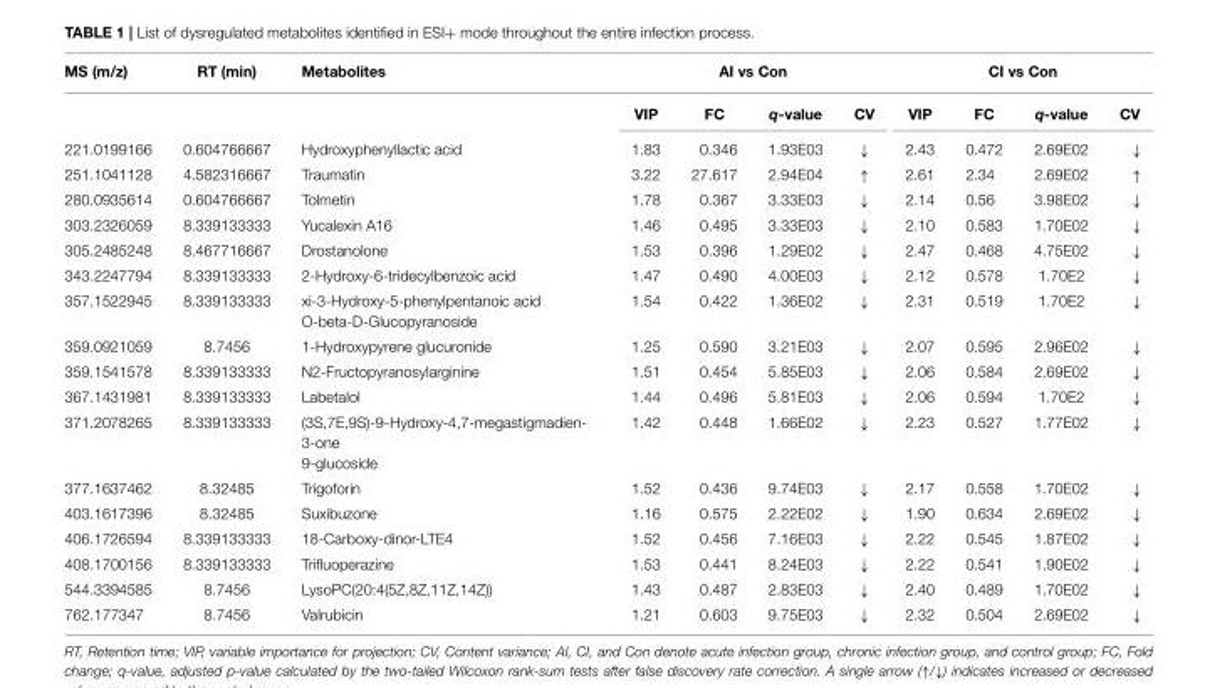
<table><thead><tr><td rowspan="2">MS (m/z)</td><td rowspan="2">RT (min)</td><td rowspan="2">Metabolites</td><td colspan="4">AI vs Con</td><td colspan="4">CI vs Con</td></tr><tr><td>VIP</td><td>FC</td><td>q-value</td><td>CV</td><td>VIP</td><td>FC</td><td>q-value</td><td>CV</td></tr></thead><tbody><tr><td>221.0199166</td><td>0.604766667</td><td>Hydroxyphenyllactic acid</td><td>1.83</td><td>0.346</td><td>1.93E03</td><td>↓</td><td>2.43</td><td>0.472</td><td>2.69E02</td><td>↓</td></tr><tr><td>251.1041128</td><td>4.582316667</td><td>Traumatin</td><td>3.22</td><td>27.617</td><td>2.94E04</td><td>↑</td><td>2.61</td><td>2.34</td><td>2.69E02</td><td>↑</td></tr><tr><td>280.0935614</td><td>0.604766667</td><td>Tolmetin</td><td>1.78</td><td>0.367</td><td>3.33E03</td><td>↓</td><td>2.14</td><td>0.56</td><td>3.98E02</td><td>↓</td></tr><tr><td>303.2326059</td><td>8.339133333</td><td>Yucalexin A16</td><td>1.46</td><td>0.495</td><td>3.33E03</td><td>↓</td><td>2.10</td><td>0.583</td><td>1.70E02</td><td>↓</td></tr><tr><td>305.2485248</td><td>8.467716667</td><td>Drostanolone</td><td>1.53</td><td>0.396</td><td>1.29E02</td><td>↓</td><td>2.47</td><td>0.468</td><td>4.75E02</td><td>↓</td></tr><tr><td>343.2247794</td><td>8.339133333</td><td>2-Hydroxy-6-tridecylbenzoic acid</td><td>1.47</td><td>0.490</td><td>4.00E03</td><td>↓</td><td>2.12</td><td>0.578</td><td>1.70E2</td><td>↓</td></tr><tr><td>357.1522945</td><td>8.339133333</td><td>xi-3-Hydroxy-5-phenylpentanoic acid O-beta-D-Glucopyranoside</td><td>1.54</td><td>0.422</td><td>1.36E02</td><td>↓</td><td>2.31</td><td>0.519</td><td>1.70E2</td><td>↓</td></tr><tr><td>359.0921059</td><td>8.7456</td><td>1-Hydroxypyrene glucuronide</td><td>1.25</td><td>0.590</td><td>3.21E03</td><td>↓</td><td>2.07</td><td>0.595</td><td>2.96E02</td><td>↓</td></tr><tr><td>359.1541578</td><td>8.339133333</td><td>N2-Fructopyranosylarginine</td><td>1.51</td><td>0.454</td><td>5.85E03</td><td>↓</td><td>2.06</td><td>0.584</td><td>2.69E02</td><td>↓</td></tr><tr><td>367.1431981</td><td>8.339133333</td><td>Labetalol</td><td>1.44</td><td>0.496</td><td>5.81E03</td><td>↓</td><td>2.06</td><td>0.594</td><td>1.70E2</td><td>↓</td></tr><tr><td>371.2078265</td><td>8.339133333</td><td>(3S,7E,9S)-9-Hydroxy-4,7-megastigmadien- 3-one 9-glucoside</td><td>1.42</td><td>0.448</td><td>1.66E02</td><td>↓</td><td>2.23</td><td>0.527</td><td>1.77E02</td><td>↓</td></tr><tr><td>377.1637462</td><td>8.32485</td><td>Trigoforin</td><td>1.52</td><td>0.436</td><td>9.74E03</td><td>↓</td><td>2.17</td><td>0.558</td><td>1.70E02</td><td>↓</td></tr><tr><td>403.1617396</td><td>8.32485</td><td>Suxibuzone</td><td>1.16</td><td>0.575</td><td>2.22E02</td><td>↓</td><td>1.90</td><td>0.634</td><td>2.69E02</td><td>↓</td></tr><tr><td>406.1726594</td><td>8.339133333</td><td>18-Carboxy-dinor-LTE4</td><td>1.52</td><td>0.456</td><td>7.16E03</td><td>↓</td><td>2.22</td><td>0.545</td><td>1.87E02</td><td>↓</td></tr><tr><td>408.1700156</td><td>8.339133333</td><td>Trifluoperazine</td><td>1.53</td><td>0.441</td><td>8.24E03</td><td>↓</td><td>2.22</td><td>0.541</td><td>1.90E02</td><td>↓</td></tr><tr><td>544.3394585</td><td>8.7456</td><td>LysoPC(20:4(5Z,8Z,11Z,14Z))</td><td>1.43</td><td>0.487</td><td>2.83E03</td><td>↓</td><td>2.40</td><td>0.489</td><td>1.70E02</td><td>↓</td></tr><tr><td>762.177347</td><td>8.7456</td><td>Valrubicin</td><td>1.21</td><td>0.603</td><td>9.75E03</td><td>↓</td><td>2.32</td><td>0.504</td><td>2.69E02</td><td>↓</td></tr></tbody></table>